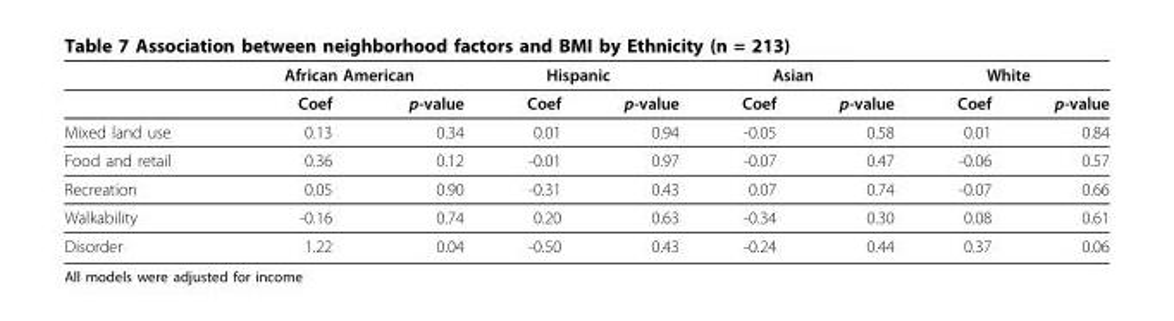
<table><thead><tr><td rowspan="2"></td><td colspan="2">African American</td><td colspan="2">Hispanic</td><td colspan="2">Asian</td><td colspan="2">White</td></tr><tr><td>Coef</td><td>p-value</td><td>Coef</td><td>p-value</td><td>Coef</td><td>p-value</td><td>Coef</td><td>p-value</td></tr></thead><tbody><tr><td>Mixed land use</td><td>0.13</td><td>0.34</td><td>0.01</td><td>0.94</td><td>-0.05</td><td>0.58</td><td>0.01</td><td>0.84</td></tr><tr><td>Food and retail</td><td>0.36</td><td>0.12</td><td>-0.01</td><td>0.97</td><td>-0.07</td><td>0.47</td><td>-0.06</td><td>0.57</td></tr><tr><td>Recreation</td><td>0.05</td><td>0.90</td><td>-0.31</td><td>0.43</td><td>0.07</td><td>0.74</td><td>-0.07</td><td>0.66</td></tr><tr><td>Walkability</td><td>-0.16</td><td>0.74</td><td>0.20</td><td>0.63</td><td>-0.34</td><td>0.30</td><td>0.08</td><td>0.61</td></tr><tr><td>Disorder</td><td>1.22</td><td>0.04</td><td>-0.50</td><td>0.43</td><td>-0.24</td><td>0.44</td><td>0.37</td><td>0.06</td></tr></tbody></table>